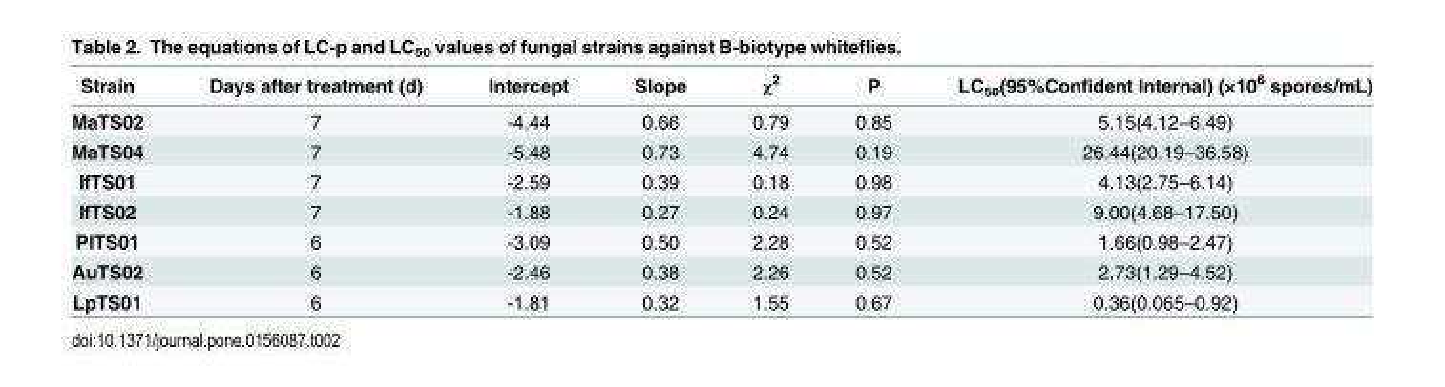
<table><thead><tr><td>Strain</td><td>Days after treatment (d)</td><td>Intercept</td><td>Slope</td><td>χ<sup>2</sup></td><td>P</td><td>LC<sub>50</sub>(95%Confident Internal) (×10<sup>6</sup> spores/mL)</td></tr></thead><tbody><tr><td>MaTS02</td><td>7</td><td>-4.44</td><td>0.66</td><td>0.79</td><td>0.85</td><td>5.15(4.12–6.49)</td></tr><tr><td>MaTS04</td><td>7</td><td>-5.48</td><td>0.73</td><td>4.74</td><td>0.19</td><td>26.44(20.19–36.58)</td></tr><tr><td>IfTS01</td><td>7</td><td>-2.59</td><td>0.39</td><td>0.18</td><td>0.98</td><td>4.13(2.75–6.14)</td></tr><tr><td>IfTS02</td><td>7</td><td>-1.88</td><td>0.27</td><td>0.24</td><td>0.97</td><td>9.00(4.68–17.50)</td></tr><tr><td>PlTS01</td><td>6</td><td>-3.09</td><td>0.50</td><td>2.28</td><td>0.52</td><td>1.66(0.98–2.47)</td></tr><tr><td>AuTS02</td><td>6</td><td>-2.46</td><td>0.38</td><td>2.26</td><td>0.52</td><td>2.73(1.29–4.52)</td></tr><tr><td>LpTS01</td><td>6</td><td>-1.81</td><td>0.32</td><td>1.55</td><td>0.67</td><td>0.36(0.065–0.92)</td></tr></tbody></table>